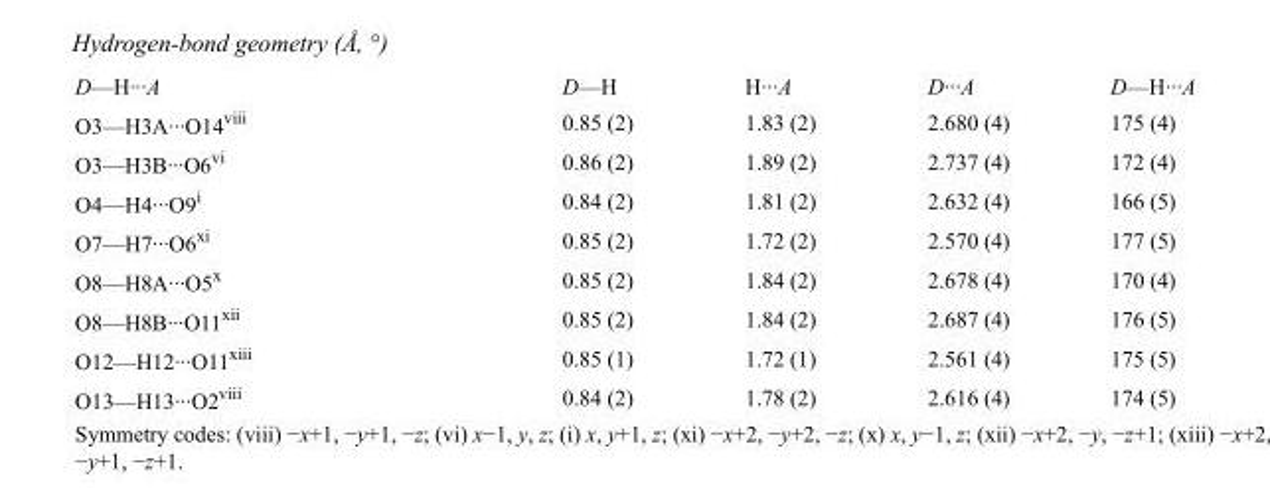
<table><tbody><tr><td>D—H···A</td><td>D—H</td><td>H···A</td><td>D···A</td><td>D—H···A</td></tr><tr><td>O3—H3A···O14<sup>viii</sup></td><td>0.85 (2)</td><td>1.83 (2)</td><td>2.680 (4)</td><td>175 (4)</td></tr><tr><td>O3—H3B···O6<sup>vi</sup></td><td>0.86 (2)</td><td>1.89 (2)</td><td>2.737 (4)</td><td>172 (4)</td></tr><tr><td>O4—H4···O9<sup>i</sup></td><td>0.84 (2)</td><td>1.81 (2)</td><td>2.632 (4)</td><td>166 (5)</td></tr><tr><td>O7—H7···O6<sup>xi</sup></td><td>0.85 (2)</td><td>1.72 (2)</td><td>2.570 (4)</td><td>177 (5)</td></tr><tr><td>O8—H8A···O5<sup>x</sup></td><td>0.85 (2)</td><td>1.84 (2)</td><td>2.678 (4)</td><td>170 (4)</td></tr><tr><td>O8—H8B···O11<sup>xii</sup></td><td>0.85 (2)</td><td>1.84 (2)</td><td>2.687 (4)</td><td>176 (5)</td></tr><tr><td>O12—H12···O11<sup>xiii</sup></td><td>0.85 (1)</td><td>1.72 (1)</td><td>2.561 (4)</td><td>175 (5)</td></tr><tr><td>O13—H13···O2<sup>viii</sup></td><td>0.84 (2)</td><td>1.78 (2)</td><td>2.616 (4)</td><td>174 (5)</td></tr></tbody></table>